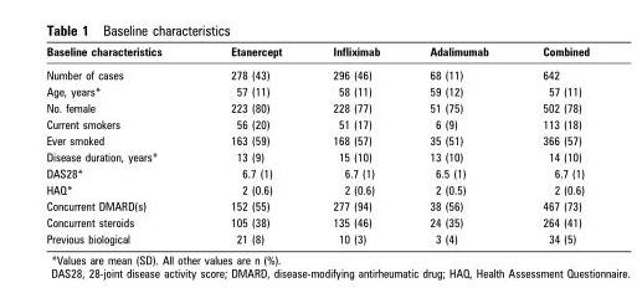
<table><thead><tr><td>Baseline characteristics</td><td>Etanercept</td><td>Infliximab</td><td>Adalimumab</td><td>Combined</td></tr></thead><tbody><tr><td>Number of cases</td><td>278 (43)</td><td>296 (46)</td><td>68 (11)</td><td>642</td></tr><tr><td>Age, years*</td><td>57 (11)</td><td>58 (11)</td><td>59 (12)</td><td>57 (11)</td></tr><tr><td>No. female</td><td>223 (80)</td><td>228 (77)</td><td>51 (75)</td><td>502 (78)</td></tr><tr><td>Current smokers</td><td>56 (20)</td><td>51 (17)</td><td>6 (9)</td><td>113 (18)</td></tr><tr><td>Ever smoked</td><td>163 (59)</td><td>168 (57)</td><td>35 (51)</td><td>366 (57)</td></tr><tr><td>Disease duration, years*</td><td>13 (9)</td><td>15 (10)</td><td>13 (10)</td><td>14 (10)</td></tr><tr><td>DAS28*</td><td>6.7 (1)</td><td>6.7 (1)</td><td>6.5 (1)</td><td>6.7 (1)</td></tr><tr><td>HAQ*</td><td>2 (0.6)</td><td>2 (0.6)</td><td>2 (0.5)</td><td>2 (0.6)</td></tr><tr><td>Concurrent DMARD(s)</td><td>152 (55)</td><td>277 (94)</td><td>38 (56)</td><td>467 (73)</td></tr><tr><td>Concurrent steroids</td><td>105 (38)</td><td>135 (46)</td><td>24 (35)</td><td>264 (41)</td></tr><tr><td>Previous biological</td><td>21 (8)</td><td>10 (3)</td><td>3 (4)</td><td>34 (5)</td></tr></tbody></table>